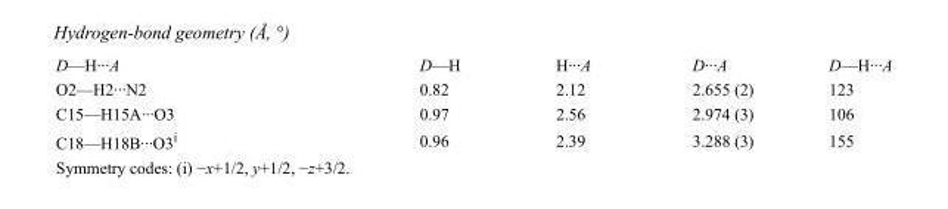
<table><tbody><tr><td>D—H···A</td><td>D—H</td><td>H···A</td><td>D···A</td><td>D—H···A</td></tr><tr><td>O2—H2···N2</td><td>0.82</td><td>2.12</td><td>2.655 (2)</td><td>123</td></tr><tr><td>C15—H15A···O3</td><td>0.97</td><td>2.56</td><td>2.974 (3)</td><td>106</td></tr><tr><td>C18—H18B···O3<sup>i</sup></td><td>0.96</td><td>2.39</td><td>3.288 (3)</td><td>155</td></tr></tbody></table>